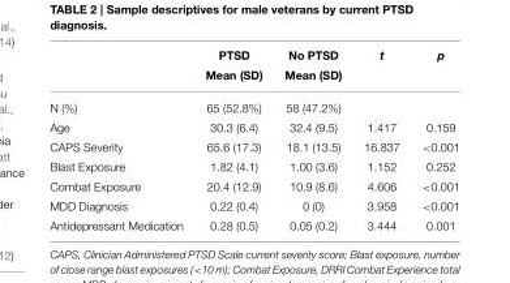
<table><thead><tr><td rowspan="2"></td><td rowspan="2">PTSD Mean (SD)</td><td rowspan="2">No PTSD Mean (SD)</td><td rowspan="2">t</td><td rowspan="2">p</td></tr><tr></tr></thead><tbody><tr><td>N (%)</td><td>65 (52.8%)</td><td>58 (47.2%)</td><td></td><td></td></tr><tr><td>Age</td><td>30.3 (6.4)</td><td>32.4 (9.5)</td><td>1.417</td><td>0.159</td></tr><tr><td>CAPS Severity</td><td>65.6 (17.3)</td><td>18.1 (13.5)</td><td>16.837</td><td>&lt;0.001</td></tr><tr><td>Blast Exposure</td><td>1.82 (4.1)</td><td>1.00 (3.6)</td><td>1.152</td><td>0.252</td></tr><tr><td>Combat Exposure</td><td>20.4 (12.9)</td><td>10.9 (8.6)</td><td>4.606</td><td>&lt;0.001</td></tr><tr><td>MDD Diagnosis</td><td>0.22 (0.4)</td><td>0 (0)</td><td>3.958</td><td>&lt;0.001</td></tr><tr><td>Antidepressant Medication</td><td>0.28 (0.5)</td><td>0.05 (0.2)</td><td>3.444</td><td>0.001</td></tr></tbody></table>